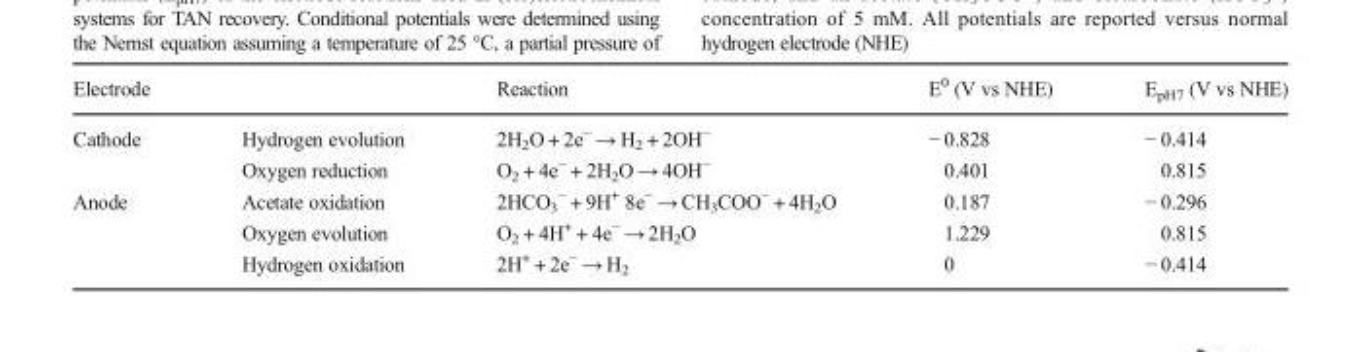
<table><thead><tr><td>Electrode</td><td></td><td>Reaction</td><td>E<sup>0</sup> (V vs NHE)</td><td>E<sub>pH7</sub> (V vs NHE)</td></tr></thead><tbody><tr><td rowspan="2">Cathode</td><td>Hydrogen evolution</td><td>2H<sub>2</sub>O + 2e<sup>−</sup> → H<sub>2</sub> + 2OH<sup>−</sup></td><td>− 0.828</td><td>− 0.414</td></tr><tr><td>Oxygen reduction</td><td>O<sub>2</sub> + 4e<sup>−</sup> + 2H<sub>2</sub>O → 4OH<sup>−</sup></td><td>0.401</td><td>0.815</td></tr><tr><td rowspan="3">Anode</td><td>Acetate oxidation</td><td>2HCO<sub>3</sub> <sup>−</sup> + 9H<sup>+</sup> 8e<sup>−</sup> → CH<sub>3</sub>COO<sup>−</sup> + 4H<sub>2</sub>O</td><td>0.187</td><td>− 0.296</td></tr><tr><td>Oxygen evolution</td><td>O<sub>2</sub> + 4H<sup>+</sup> + 4e<sup>−</sup> → 2H<sub>2</sub>O</td><td>1.229</td><td>0.815</td></tr><tr><td>Hydrogen oxidation</td><td>2H<sup>+</sup> + 2e<sup>−</sup> → H<sub>2</sub></td><td>0</td><td>− 0.414</td></tr></tbody></table>